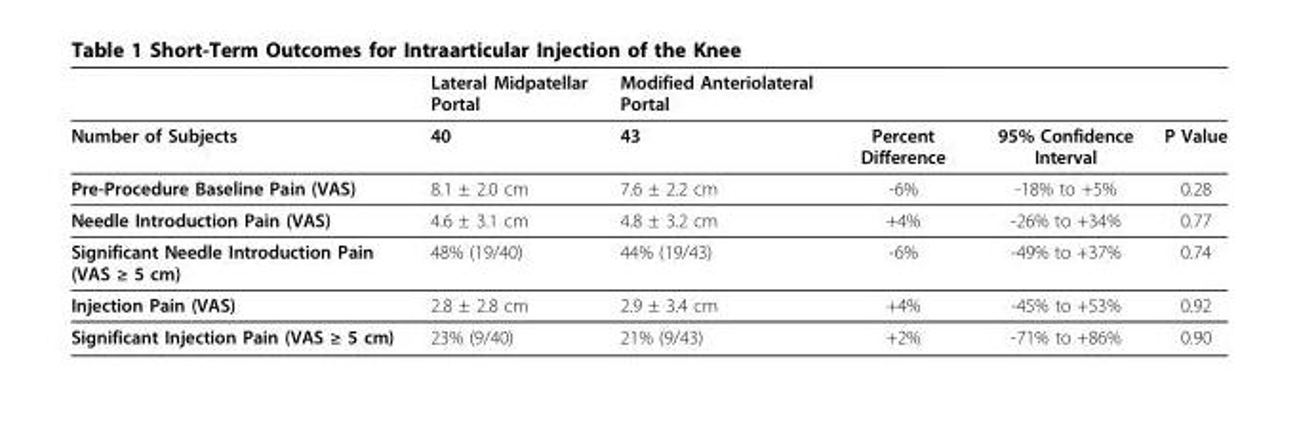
<table><thead><tr><td></td><td>Lateral Midpatellar Portal</td><td>Modified Anteriolateral Portal</td><td></td><td></td><td></td></tr></thead><tbody><tr><td>Number of Subjects</td><td>40</td><td>43</td><td>Percent Difference</td><td>95% Confidence Interval</td><td>P Value</td></tr><tr><td>Pre-Procedure Baseline Pain (VAS)</td><td>8.1 ± 2.0 cm</td><td>7.6 ± 2.2 cm</td><td>-6%</td><td>-18% to +5%</td><td>0.28</td></tr><tr><td>Needle Introduction Pain (VAS)</td><td>4.6 ± 3.1 cm</td><td>4.8 ± 3.2 cm</td><td>+4%</td><td>-26% to +34%</td><td>0.77</td></tr><tr><td>Significant Needle Introduction Pain (VAS ≥ 5 cm)</td><td>48% (19/40)</td><td>44% (19/43)</td><td>-6%</td><td>-49% to +37%</td><td>0.74</td></tr><tr><td>Injection Pain (VAS)</td><td>2.8 ± 2.8 cm</td><td>2.9 ± 3.4 cm</td><td>+4%</td><td>-45% to +53%</td><td>0.92</td></tr><tr><td>Significant Injection Pain (VAS ≥ 5 cm)</td><td>23% (9/40)</td><td>21% (9/43)</td><td>+2%</td><td>-71% to +86%</td><td>0.90</td></tr></tbody></table>